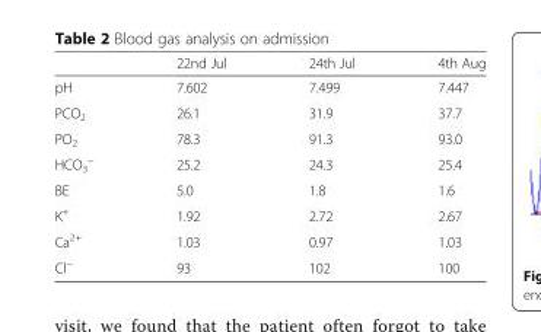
<table><thead><tr><td></td><td>22nd Jul</td><td>24th Jul</td><td>4th Aug</td></tr></thead><tbody><tr><td>pH</td><td>7.602</td><td>7.499</td><td>7.447</td></tr><tr><td>PCO<sub>2</sub></td><td>26.1</td><td>31.9</td><td>37.7</td></tr><tr><td>PO<sub>2</sub></td><td>78.3</td><td>91.3</td><td>93.0</td></tr><tr><td>HCO<sub>3</sub> <sup>−</sup></td><td>25.2</td><td>24.3</td><td>25.4</td></tr><tr><td>BE</td><td>5.0</td><td>1.8</td><td>1.6</td></tr><tr><td>K<sup>+</sup></td><td>1.92</td><td>2.72</td><td>2.67</td></tr><tr><td>Ca<sup>2+</sup></td><td>1.03</td><td>0.97</td><td>1.03</td></tr><tr><td>Cl<sup>−</sup></td><td>93</td><td>102</td><td>100</td></tr></tbody></table>